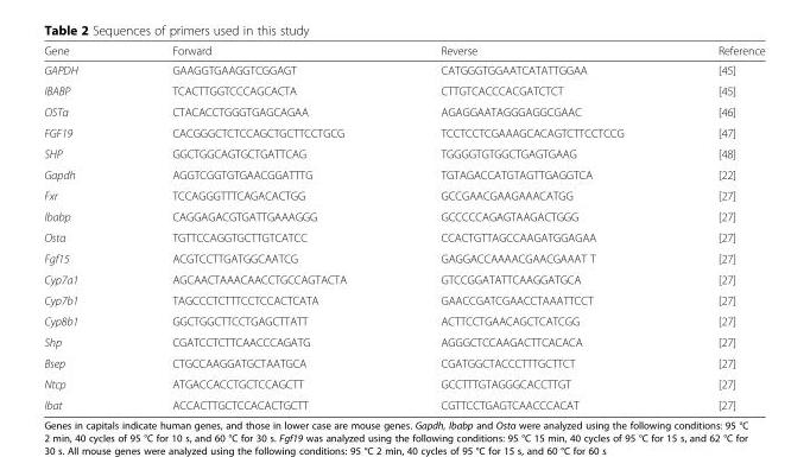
<table><thead><tr><td>Gene</td><td>Forward</td><td>Reverse</td><td>Reference</td></tr></thead><tbody><tr><td>GAPDH</td><td>GAAGGTGAAGGTCGGAGT</td><td>CATGGGTGGAATCATATTGGAA</td><td>[45]</td></tr><tr><td>IBABP</td><td>TCACTTGGTCCCAGCACTA</td><td>CTTGTCACCCACGATCTCT</td><td>[45]</td></tr><tr><td>OSTα</td><td>CTACACCTGGGTGAGCAGAA</td><td>AGAGGAATAGGGAGGCGAAC</td><td>[46]</td></tr><tr><td>FGF19</td><td>CACGGGCTCTCCAGCTGCTTCCTGCG</td><td>TCCTCCTCGAAAGCACAGTCTTCCTCCG</td><td>[47]</td></tr><tr><td>SHP</td><td>GGCTGGCAGTGCTGATTCAG</td><td>TGGGGTGTGGCTGAGTGAAG</td><td>[48]</td></tr><tr><td>Gapdh</td><td>AGGTCGGTGTGAACGGATTTG</td><td>TGTAGACCATGTAGTTGAGGTCA</td><td>[22]</td></tr><tr><td>Fxr</td><td>TCCAGGGTTTCAGACACTGG</td><td>GCCGAACGAAGAAACATGG</td><td>[27]</td></tr><tr><td>Ibabp</td><td>CAGGAGACGTGATTGAAAGGG</td><td>GCCCCCAGAGTAAGACTGGG</td><td>[27]</td></tr><tr><td>Ostα</td><td>TGTTCCAGGTGCTTGTCATCC</td><td>CCACTGTTAGCCAAGATGGAGAA</td><td>[27]</td></tr><tr><td>Fgf15</td><td>ACGTCCTTGATGGCAATCG</td><td>GAGGACCAAAACGAACGAAAT T</td><td>[27]</td></tr><tr><td>Cyp7a1</td><td>AGCAACTAAACAACCTGCCAGTACTA</td><td>GTCCGGATATTCAAGGATGCA</td><td>[27]</td></tr><tr><td>Cyp7b1</td><td>TAGCCCTCTTTCCTCCACTCATA</td><td>GAACCGATCGAACCTAAATTCCT</td><td>[27]</td></tr><tr><td>Cyp8b1</td><td>GGCTGGCTTCCTGAGCTTATT</td><td>ACTTCCTGAACAGCTCATCGG</td><td>[27]</td></tr><tr><td>Shp</td><td>CGATCCTCTTCAACCCAGATG</td><td>AGGGCTCCAAGACTTCACACA</td><td>[27]</td></tr><tr><td>Bsep</td><td>CTGCCAAGGATGCTAATGCA</td><td>CGATGGCTACCCTTTGCTTCT</td><td>[27]</td></tr><tr><td>Ntcp</td><td>ATGACCACCTGCTCCAGCTT</td><td>GCCTTTGTAGGGCACCTTGT</td><td>[27]</td></tr><tr><td>Ibat</td><td>ACCACTTGCTCCACACTGCTT</td><td>CGTTCCTGAGTCAACCCACAT</td><td>[27]</td></tr></tbody></table>